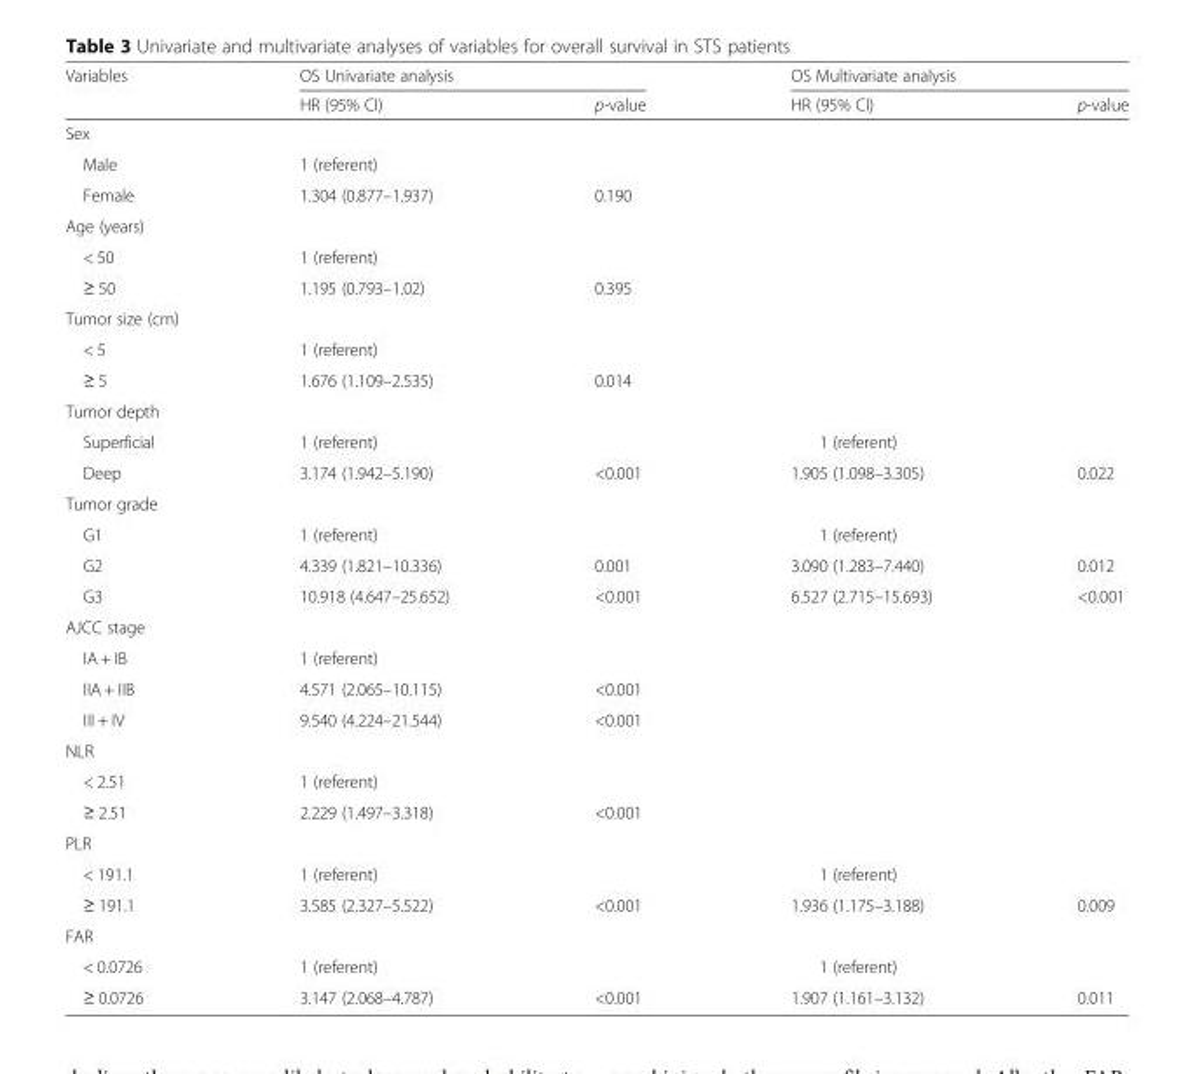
<table><thead><tr><td rowspan="2">Variables</td><td colspan="2">OS Univariate analysis</td><td colspan="2">OS Multivariate analysis</td></tr><tr><td>HR (95% CI)</td><td>p-value</td><td>HR (95% CI)</td><td>p-value</td></tr></thead><tbody><tr><td colspan="5">Sex</td></tr><tr><td>Male</td><td>1 (referent)</td><td></td><td></td><td></td></tr><tr><td>Female</td><td>1.304 (0.877–1.937)</td><td>0.190</td><td></td><td></td></tr><tr><td colspan="5">Age (years)</td></tr><tr><td>&lt; 50</td><td>1 (referent)</td><td></td><td></td><td></td></tr><tr><td>≥ 50</td><td>1.195 (0.793–1.02)</td><td>0.395</td><td></td><td></td></tr><tr><td colspan="5">Tumor size (cm)</td></tr><tr><td>&lt; 5</td><td>1 (referent)</td><td></td><td></td><td></td></tr><tr><td>≥ 5</td><td>1.676 (1.109–2.535)</td><td>0.014</td><td></td><td></td></tr><tr><td colspan="5">Tumor depth</td></tr><tr><td>Superficial</td><td>1 (referent)</td><td></td><td>1 (referent)</td><td></td></tr><tr><td>Deep</td><td>3.174 (1.942–5.190)</td><td>&lt;0.001</td><td>1.905 (1.098–3.305)</td><td>0.022</td></tr><tr><td colspan="5">Tumor grade</td></tr><tr><td>G1</td><td>1 (referent)</td><td></td><td>1 (referent)</td><td></td></tr><tr><td>G2</td><td>4.339 (1.821–10.336)</td><td>0.001</td><td>3.090 (1.283–7.440)</td><td>0.012</td></tr><tr><td>G3</td><td>10.918 (4.647–25.652)</td><td>&lt;0.001</td><td>6.527 (2.715–15.693)</td><td>&lt;0.001</td></tr><tr><td colspan="5">AJCC stage</td></tr><tr><td>IA + IB</td><td>1 (referent)</td><td></td><td></td><td></td></tr><tr><td>IIA + IIB</td><td>4.571 (2.065–10.115)</td><td>&lt;0.001</td><td></td><td></td></tr><tr><td>III + IV</td><td>9.540 (4.224–21.544)</td><td>&lt;0.001</td><td></td><td></td></tr><tr><td colspan="5">NLR</td></tr><tr><td>&lt; 2.51</td><td>1 (referent)</td><td></td><td></td><td></td></tr><tr><td>≥ 2.51</td><td>2.229 (1.497–3.318)</td><td>&lt;0.001</td><td></td><td></td></tr><tr><td colspan="5">PLR</td></tr><tr><td>&lt; 191.1</td><td>1 (referent)</td><td></td><td>1 (referent)</td><td></td></tr><tr><td>≥ 191.1</td><td>3.585 (2.327–5.522)</td><td>&lt;0.001</td><td>1.936 (1.175–3.188)</td><td>0.009</td></tr><tr><td colspan="5">FAR</td></tr><tr><td>&lt; 0.0726</td><td>1 (referent)</td><td></td><td>1 (referent)</td><td></td></tr><tr><td>≥ 0.0726</td><td>3.147 (2.068–4.787)</td><td>&lt;0.001</td><td>1.907 (1.161–3.132)</td><td>0.011</td></tr></tbody></table>